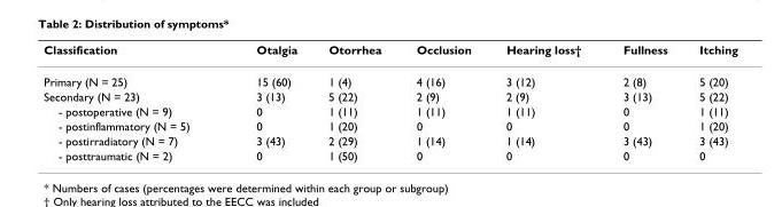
<table><thead><tr><td>Classification</td><td>Otalgia</td><td>Otorrhea</td><td>Occlusion</td><td>Hearing loss†</td><td>Fullness</td><td>Itching</td></tr></thead><tbody><tr><td>Primary (N = 25)</td><td>15 (60)</td><td>1 (4)</td><td>4 (16)</td><td>3 (12)</td><td>2 (8)</td><td>5 (20)</td></tr><tr><td>Secondary (N = 23)</td><td>3 (13)</td><td>5 (22)</td><td>2 (9)</td><td>2 (9)</td><td>3 (13)</td><td>5 (22)</td></tr><tr><td>- postoperative (N = 9)</td><td>0</td><td>1 (11)</td><td>1 (11)</td><td>1 (11)</td><td>0</td><td>1 (11)</td></tr><tr><td>- postinflammatory (N = 5)</td><td>0</td><td>1 (20)</td><td>0</td><td>0</td><td>0</td><td>1 (20)</td></tr><tr><td>- postirradiatory (N = 7)</td><td>3 (43)</td><td>2 (29)</td><td>1 (14)</td><td>1 (14)</td><td>3 (43)</td><td>3 (43)</td></tr><tr><td>- posttraumatic (N = 2)</td><td>0</td><td>1 (50)</td><td>0</td><td>0</td><td>0</td><td>0</td></tr></tbody></table>